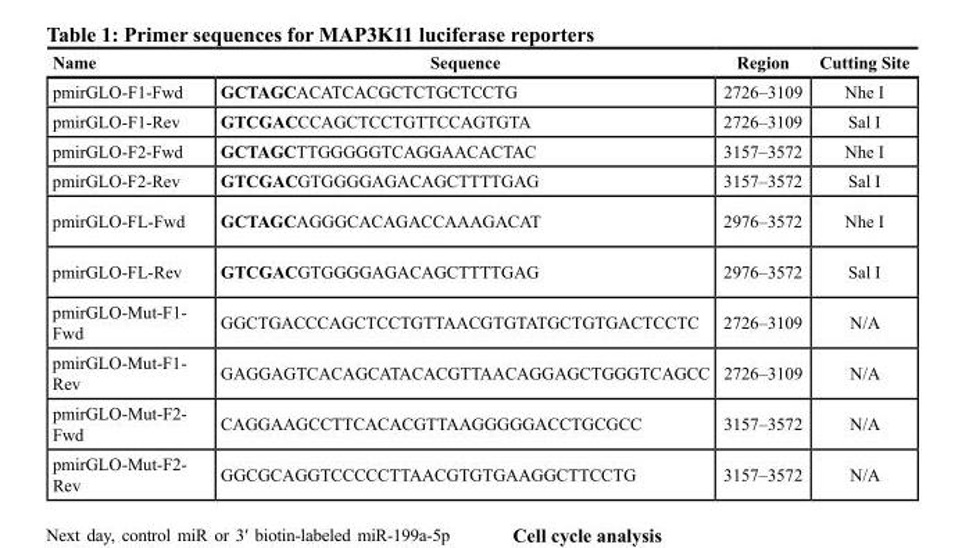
<table><thead><tr><td>Name</td><td>Sequence</td><td>Region</td><td>Cutting Site</td></tr></thead><tbody><tr><td>pmirGLO-F1-Fwd</td><td>GCTAGC ACATCACGCTCTGCTCCTG</td><td>2726–3109</td><td>Nhe I</td></tr><tr><td>pmirGLO-F1-Rev</td><td>GTCGAC CCAGCTCCTGTTCCAGTGTA</td><td>2726–3109</td><td>Sal I</td></tr><tr><td>pmirGLO-F2-Fwd</td><td>GCTAGC TTGGGGGTCAGGAACACTAC</td><td>3157–3572</td><td>Nhe I</td></tr><tr><td>pmirGLO-F2-Rev</td><td>GTCGAC GTGGGGAGACAGCTTTTGAG</td><td>3157–3572</td><td>Sal I</td></tr><tr><td>pmirGLO-FL-Fwd</td><td>GCTAGC AGGGCACAGACCAAAGACAT</td><td>2976–3572</td><td>Nhe I</td></tr><tr><td>pmirGLO-FL-Rev</td><td>GTCGAC GTGGGGAGACAGCTTTTGAG</td><td>2976–3572</td><td>Sal I</td></tr><tr><td>pmirGLO-Mut-F1- Fwd</td><td>GGCTGACCCAGCTCCTGTTAACGTGTATGCTGTGACTCCTC</td><td>2726–3109</td><td>N/A</td></tr><tr><td>pmirGLO-Mut-F1- Rev</td><td>GAGGAGTCACAGCATACACGTTAACAGGAGCTGGGTCAGCC</td><td>2726–3109</td><td>N/A</td></tr><tr><td>pmirGLO-Mut-F2- Fwd</td><td>CAGGAAGCCTTCACACGTTAAGGGGGACCTGCGCC</td><td>3157–3572</td><td>N/A</td></tr><tr><td>pmirGLO-Mut-F2- Rev</td><td>GGCGCAGGTCCCCCTTAACGTGTGAAGGCTTCCTG</td><td>3157–3572</td><td>N/A</td></tr></tbody></table>